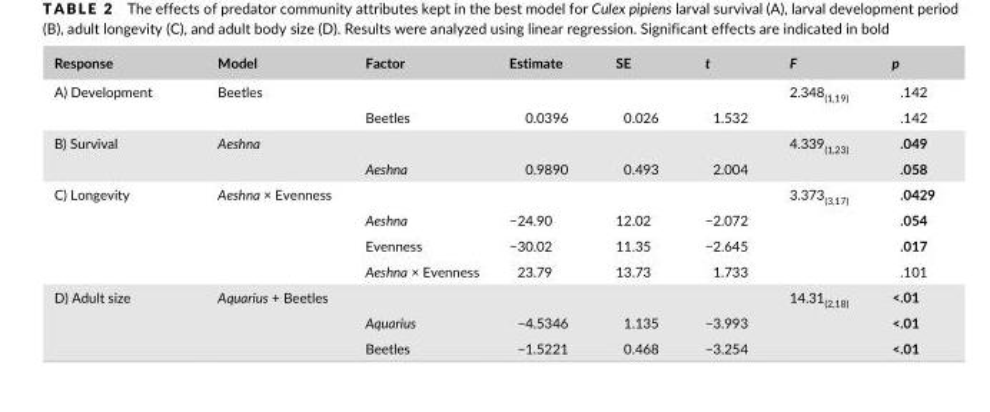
<table><thead><tr><td>Response</td><td>Model</td><td>Factor</td><td>Estimate</td><td>SE</td><td>t</td><td>F</td><td>p</td></tr></thead><tbody><tr><td rowspan="2">A) Development</td><td rowspan="2">Beetles</td><td></td><td></td><td></td><td></td><td>2.348<sub>(1,19)</sub></td><td>.142</td></tr><tr><td>Beetles</td><td>0.0396</td><td>0.026</td><td>1.532</td><td></td><td>.142</td></tr><tr><td rowspan="2">B) Survival</td><td rowspan="2">Aeshna</td><td></td><td></td><td></td><td></td><td>4.339<sub>(1,23)</sub></td><td>.049</td></tr><tr><td>Aeshna</td><td>0.9890</td><td>0.493</td><td>2.004</td><td></td><td>.058</td></tr><tr><td rowspan="4">C) Longevity</td><td rowspan="3">Aeshna × Evenness</td><td></td><td></td><td></td><td></td><td>3.373<sub>(3,17)</sub></td><td>.0429</td></tr><tr><td>Aeshna</td><td>−24.90</td><td>12.02</td><td>−2.072</td><td></td><td>.054</td></tr><tr><td>Evenness</td><td>−30.02</td><td>11.35</td><td>−2.645</td><td></td><td>.017</td></tr><tr><td></td><td>Aeshna × Evenness</td><td>23.79</td><td>13.73</td><td>1.733</td><td></td><td>.101</td></tr><tr><td rowspan="3">D) Adult size</td><td rowspan="3">Aquarius + Beetles</td><td></td><td></td><td></td><td></td><td>14.31<sub>(2,18)</sub></td><td>&lt;.01</td></tr><tr><td>Aquarius</td><td>−4.5346</td><td>1.135</td><td>−3.993</td><td></td><td>&lt;.01</td></tr><tr><td>Beetles</td><td>−1.5221</td><td>0.468</td><td>−3.254</td><td></td><td>&lt;.01</td></tr></tbody></table>